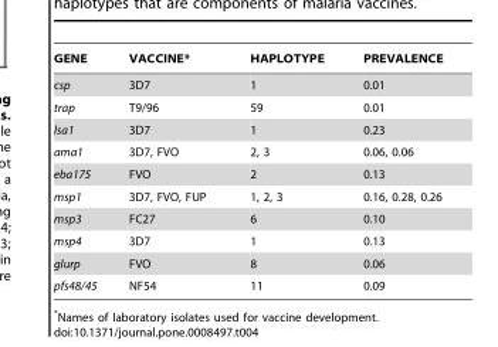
<table><thead><tr><td>GENE</td><td>VACCINE*</td><td>HAPLOTYPE</td><td>PREVALENCE</td></tr></thead><tbody><tr><td>csp</td><td>3D7</td><td>1</td><td>0.01</td></tr><tr><td>trap</td><td>T9/96</td><td>59</td><td>0.01</td></tr><tr><td>lsa1</td><td>3D7</td><td>1</td><td>0.23</td></tr><tr><td>ama1</td><td>3D7, FVO</td><td>2, 3</td><td>0.06, 0.06</td></tr><tr><td>eba175</td><td>FVO</td><td>2</td><td>0.13</td></tr><tr><td>msp1</td><td>3D7, FVO, FUP</td><td>1, 2, 3</td><td>0.16, 0.28, 0.26</td></tr><tr><td>msp3</td><td>FC27</td><td>6</td><td>0.10</td></tr><tr><td>msp4</td><td>3D7</td><td>1</td><td>0.13</td></tr><tr><td>glurp</td><td>FVO</td><td>8</td><td>0.06</td></tr><tr><td>pfs48/45</td><td>NF54</td><td>11</td><td>0.09</td></tr></tbody></table>